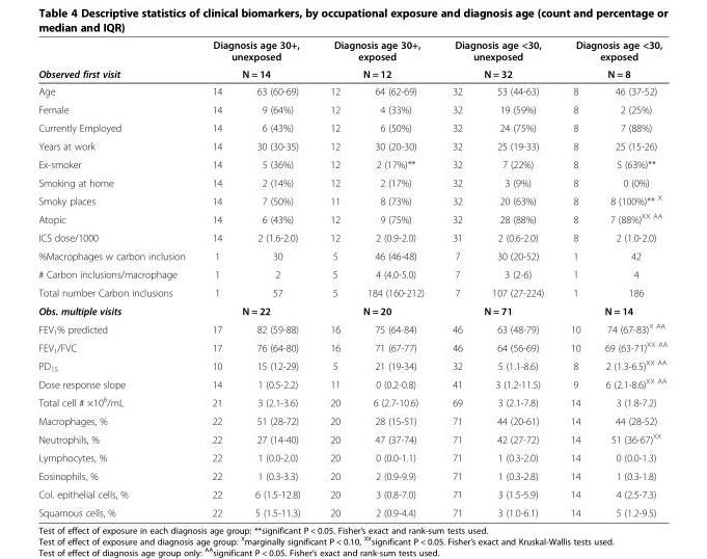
<table><thead><tr><td rowspan="3">Observed first visit Age</td><td rowspan="2" colspan="2">Diagnosis age 30+, unexposed N = 14</td><td rowspan="2" colspan="2">Diagnosis age 30+, exposed N = 12</td><td rowspan="2" colspan="2">Diagnosis age &lt;30, unexposed N = 32</td><td rowspan="2" colspan="2">Diagnosis age &lt;30, exposed N = 8</td></tr><tr></tr><tr><td>14</td><td>63 (60-69)</td><td>12</td><td>64 (62-69)</td><td>32</td><td>53 (44-63)</td><td>8</td><td>46 (37-52)</td></tr></thead><tbody><tr><td>Female</td><td>14</td><td>9 (64%)</td><td>12</td><td>4 (33%)</td><td>32</td><td>19 (59%)</td><td>8</td><td>2 (25%)</td></tr><tr><td>Currently Employed</td><td>14</td><td>6 (43%)</td><td>12</td><td>6 (50%)</td><td>32</td><td>24 (75%)</td><td>8</td><td>7 (88%)</td></tr><tr><td>Years at work</td><td>14</td><td>30 (30-35)</td><td>12</td><td>30 (20-30)</td><td>32</td><td>25 (19-33)</td><td>8</td><td>25 (15-26)</td></tr><tr><td>Ex-smoker</td><td>14</td><td>5 (36%)</td><td>12</td><td>2 (17%)**</td><td>32</td><td>7 (22%)</td><td>8</td><td>5 (63%)**</td></tr><tr><td>Smoking at home</td><td>14</td><td>2 (14%)</td><td>12</td><td>2 (17%)</td><td>32</td><td>3 (9%)</td><td>8</td><td>0 (0%)</td></tr><tr><td>Smoky places</td><td>14</td><td>7 (50%)</td><td>11</td><td>8 (73%)</td><td>32</td><td>20 (63%)</td><td>8</td><td>8 (100%)** <sup>X</sup></td></tr><tr><td>Atopic</td><td>14</td><td>6 (43%)</td><td>12</td><td>9 (75%)</td><td>32</td><td>28 (88%)</td><td>8</td><td>7 (88%)<sup>XX AA</sup></td></tr><tr><td>ICS dose/1000</td><td>14</td><td>2 (1.6-2.0)</td><td>12</td><td>2 (0.9-2.0)</td><td>31</td><td>2 (0.6-2.0)</td><td>8</td><td>2 (1.0-2.0)</td></tr><tr><td>%Macrophages w carbon inclusion</td><td>1</td><td>30</td><td>5</td><td>46 (46-48)</td><td>7</td><td>30 (20-52)</td><td>1</td><td>42</td></tr><tr><td># Carbon inclusions/macrophage</td><td>1</td><td>2</td><td>5</td><td>4 (4.0-5.0)</td><td>7</td><td>3 (2-6)</td><td>1</td><td>4</td></tr><tr><td>Total number Carbon inclusions</td><td>1</td><td>57</td><td>5</td><td>184 (160-212)</td><td>7</td><td>107 (27-224)</td><td>1</td><td>186</td></tr><tr><td>Obs. multiple visits</td><td colspan="2">N = 22</td><td colspan="2">N = 20</td><td colspan="2">N = 71</td><td colspan="2">N = 14</td></tr><tr><td>FEV<sub>1</sub>% predicted</td><td>17</td><td>82 (59-88)</td><td>16</td><td>75 (64-84)</td><td>46</td><td>63 (48-79)</td><td>10</td><td>74 (67-83)<sup>X AA</sup></td></tr><tr><td>FEV<sub>1</sub>/FVC</td><td>17</td><td>76 (64-80)</td><td>16</td><td>71 (67-77)</td><td>46</td><td>64 (56-69)</td><td>10</td><td>69 (63-71)<sup>XX AA</sup></td></tr><tr><td>PD<sub>15</sub></td><td>10</td><td>15 (12-29)</td><td>5</td><td>21 (19-34)</td><td>32</td><td>5 (1.1-8.6)</td><td>8</td><td>2 (1.3-6.5)<sup>XX AA</sup></td></tr><tr><td>Dose response slope</td><td>14</td><td>1 (0.5-2.2)</td><td>11</td><td>0 (0.2-0.8)</td><td>41</td><td>3 (1.2-11.5)</td><td>9</td><td>6 (2.1-8.6)<sup>XX AA</sup></td></tr><tr><td>Total cell # ×10<sup>6</sup>/mL</td><td>21</td><td>3 (2.1-3.6)</td><td>20</td><td>6 (2.7-10.6)</td><td>69</td><td>3 (2.1-7.8)</td><td>14</td><td>3 (1.8-7.2)</td></tr><tr><td>Macrophages, %</td><td>22</td><td>51 (28-72)</td><td>20</td><td>28 (15-51)</td><td>71</td><td>44 (20-61)</td><td>14</td><td>44 (28-52)</td></tr><tr><td>Neutrophils, %</td><td>22</td><td>27 (14-40)</td><td>20</td><td>47 (37-74)</td><td>71</td><td>42 (27-72)</td><td>14</td><td>51 (36-67)<sup>XX</sup></td></tr><tr><td>Lymphocytes, %</td><td>22</td><td>1 (0.0-2.0)</td><td>20</td><td>0 (0.0-1.1)</td><td>71</td><td>1 (0.3-2.0)</td><td>14</td><td>0 (0.0-1.3)</td></tr><tr><td>Eosinophils, %</td><td>22</td><td>1 (0.3-3.3)</td><td>20</td><td>2 (0.9-9.9)</td><td>71</td><td>1 (0.3-2.8)</td><td>14</td><td>1 (0.3-1.8)</td></tr><tr><td>Col. epithelial cells, %</td><td>22</td><td>6 (1.5-12.8)</td><td>20</td><td>3 (0.8-7.0)</td><td>71</td><td>3 (1.5-5.9)</td><td>14</td><td>4 (2.5-7.3)</td></tr><tr><td>Squamous cells, %</td><td>22</td><td>5 (1.5-11.3)</td><td>20</td><td>2 (0.9-4.4)</td><td>71</td><td>3 (1.0-6.1)</td><td>14</td><td>5 (1.2-9.5)</td></tr></tbody></table>